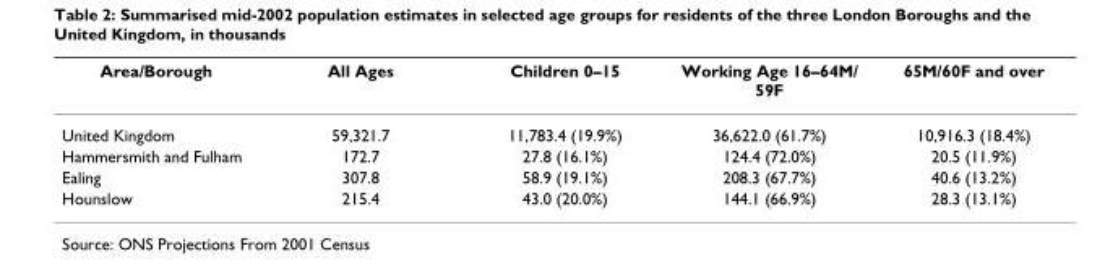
<table><thead><tr><td>Area/Borough</td><td>All Ages</td><td>Children 0–15</td><td>Working Age 16–64M/ 59F</td><td>65M/60F and over</td></tr></thead><tbody><tr><td>United Kingdom</td><td>59,321.7</td><td>11,783.4 (19.9%)</td><td>36,622.0 (61.7%)</td><td>10,916.3 (18.4%)</td></tr><tr><td>Hammersmith and Fulham</td><td>172.7</td><td>27.8 (16.1%)</td><td>124.4 (72.0%)</td><td>20.5 (11.9%)</td></tr><tr><td>Ealing</td><td>307.8</td><td>58.9 (19.1%)</td><td>208.3 (67.7%)</td><td>40.6 (13.2%)</td></tr><tr><td>Hounslow</td><td>215.4</td><td>43.0 (20.0%)</td><td>144.1 (66.9%)</td><td>28.3 (13.1%)</td></tr></tbody></table>